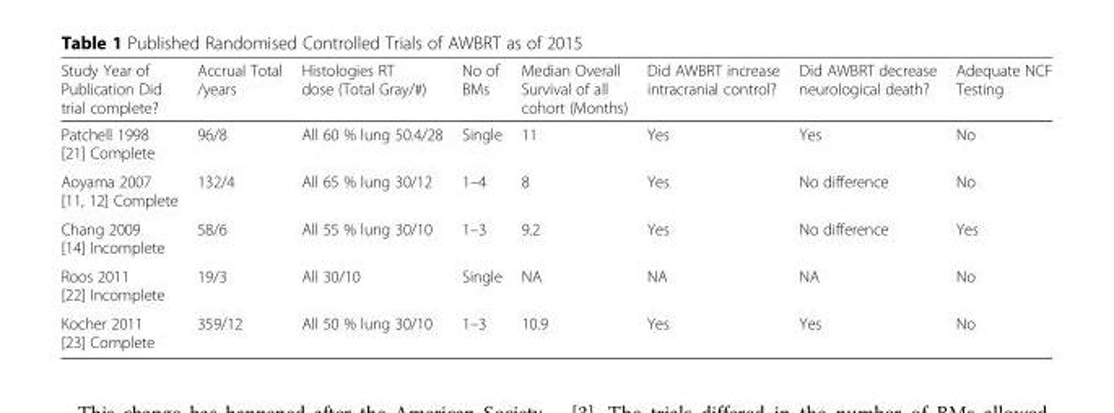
<table><thead><tr><td>Study Year of Publication Did trial complete?</td><td>Accrual Total /years</td><td>Histologies RT dose (Total Gray/#)</td><td>No of BMs</td><td>Median Overall Survival of all cohort (Months)</td><td>Did AWBRT increase intracranial control?</td><td>Did AWBRT decrease neurological death?</td><td>Adequate NCF Testing</td></tr></thead><tbody><tr><td>Patchell 1998 [21] Complete</td><td>96/8</td><td>All 60 % lung 50.4/28</td><td>Single</td><td>11</td><td>Yes</td><td>Yes</td><td>No</td></tr><tr><td>Aoyama 2007 [11, 12] Complete</td><td>132/4</td><td>All 65 % lung 30/12</td><td>1–4</td><td>8</td><td>Yes</td><td>No difference</td><td>No</td></tr><tr><td>Chang 2009 [14] Incomplete</td><td>58/6</td><td>All 55 % lung 30/10</td><td>1–3</td><td>9.2</td><td>Yes</td><td>No difference</td><td>Yes</td></tr><tr><td>Roos 2011 [22] Incomplete</td><td>19/3</td><td>All 30/10</td><td>Single</td><td>NA</td><td>NA</td><td>NA</td><td>No</td></tr><tr><td>Kocher 2011 [23] Complete</td><td>359/12</td><td>All 50 % lung 30/10</td><td>1–3</td><td>10.9</td><td>Yes</td><td>Yes</td><td>No</td></tr></tbody></table>